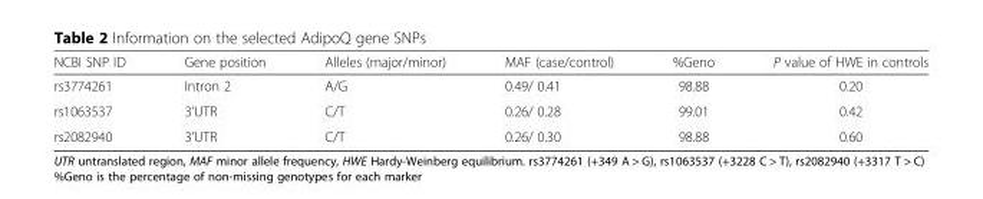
<table><thead><tr><td>NCBI SNP ID</td><td>Gene position</td><td>Alleles (major/minor)</td><td>MAF (case/control)</td><td>%Geno</td><td>P value of HWE in controls</td></tr></thead><tbody><tr><td>rs3774261</td><td>Intron 2</td><td>A/G</td><td>0.49/ 0.41</td><td>98.88</td><td>0.20</td></tr><tr><td>rs1063537</td><td>3’UTR</td><td>C/T</td><td>0.26/ 0.28</td><td>99.01</td><td>0.42</td></tr><tr><td>rs2082940</td><td>3’UTR</td><td>C/T</td><td>0.26/ 0.30</td><td>98.88</td><td>0.60</td></tr></tbody></table>